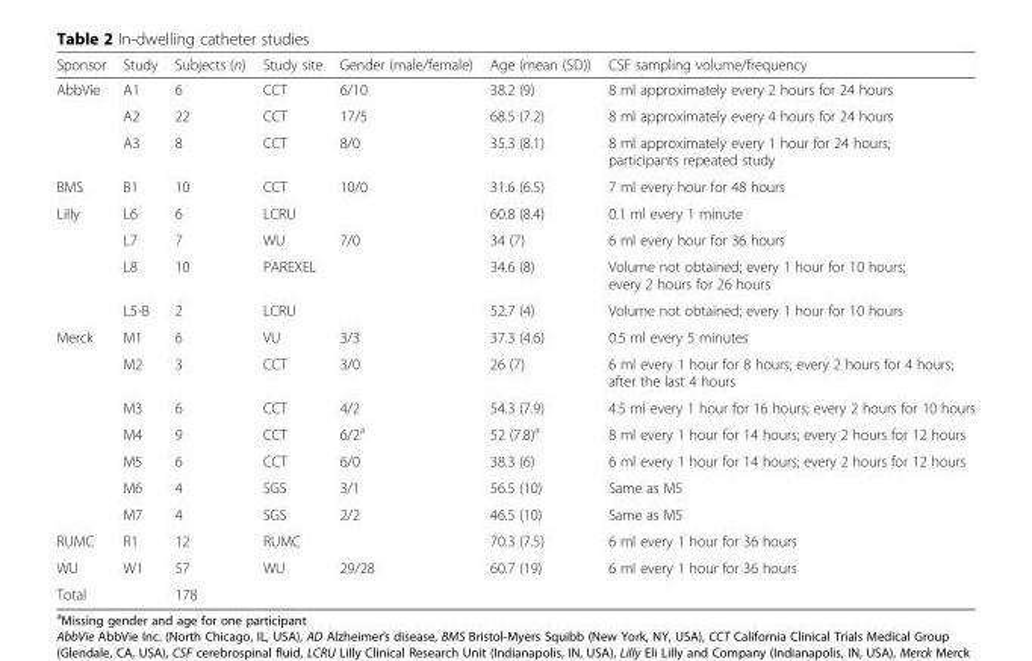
<table><thead><tr><td>Sponsor</td><td>Study</td><td>Subjects (n)</td><td>Study site</td><td>Gender (male/female)</td><td>Age (mean (SD))</td><td>CSF sampling volume/frequency</td></tr></thead><tbody><tr><td rowspan="3">AbbVie</td><td>A1</td><td>6</td><td>CCT</td><td>6/10</td><td>38.2 (9)</td><td>8 ml approximately every 2 hours for 24 hours</td></tr><tr><td>A2</td><td>22</td><td>CCT</td><td>17/5</td><td>68.5 (7.2)</td><td>8 ml approximately every 4 hours for 24 hours</td></tr><tr><td>A3</td><td>8</td><td>CCT</td><td>8/0</td><td>35.3 (8.1)</td><td>8 ml approximately every 1 hour for 24 hours; participants repeated study</td></tr><tr><td>BMS</td><td>B1</td><td>10</td><td>CCT</td><td>10/0</td><td>31.6 (6.5)</td><td>7 ml every hour for 48 hours</td></tr><tr><td rowspan="4">Lilly</td><td>L6</td><td>6</td><td>LCRU</td><td></td><td>60.8 (8.4)</td><td>0.1 ml every 1 minute</td></tr><tr><td>L7</td><td>7</td><td>WU</td><td>7/0</td><td>34 (7)</td><td>6 ml every hour for 36 hours</td></tr><tr><td>L8</td><td>10</td><td>PAREXEL</td><td></td><td>34.6 (8)</td><td>Volume not obtained; every 1 hour for 10 hours; every 2 hours for 26 hours</td></tr><tr><td>L5-B</td><td>2</td><td>LCRU</td><td></td><td>52.7 (4)</td><td>Volume not obtained; every 1 hour for 10 hours</td></tr><tr><td rowspan="7">Merck</td><td>M1</td><td>6</td><td>VU</td><td>3/3</td><td>37.3 (4.6)</td><td>0.5 ml every 5 minutes</td></tr><tr><td>M2</td><td>3</td><td>CCT</td><td>3/0</td><td>26 (7)</td><td>6 ml every 1 hour for 8 hours; every 2 hours for 4 hours; after the last 4 hours</td></tr><tr><td>M3</td><td>6</td><td>CCT</td><td>4/2</td><td>54.3 (7.9)</td><td>4.5 ml every 1 hour for 16 hours; every 2 hours for 10 hours</td></tr><tr><td>M4</td><td>9</td><td>CCT</td><td>6/2<sup>a</sup></td><td>52 (7.8)<sup>a</sup></td><td>8 ml every 1 hour for 14 hours; every 2 hours for 12 hours</td></tr><tr><td>M5</td><td>6</td><td>CCT</td><td>6/0</td><td>38.3 (6)</td><td>6 ml every 1 hour for 14 hours; every 2 hours for 12 hours</td></tr><tr><td>M6</td><td>4</td><td>SGS</td><td>3/1</td><td>56.5 (10)</td><td>Same as M5</td></tr><tr><td>M7</td><td>4</td><td>SGS</td><td>2/2</td><td>46.5 (10)</td><td>Same as M5</td></tr><tr><td>RUMC</td><td>R1</td><td>12</td><td>RUMC</td><td></td><td>70.3 (7.5)</td><td>6 ml every 1 hour for 36 hours</td></tr><tr><td>WU</td><td>W1</td><td>57</td><td>WU</td><td>29/28</td><td>60.7 (19)</td><td>6 ml every 1 hour for 36 hours</td></tr><tr><td>Total</td><td></td><td>178</td><td></td><td></td><td></td><td></td></tr></tbody></table>